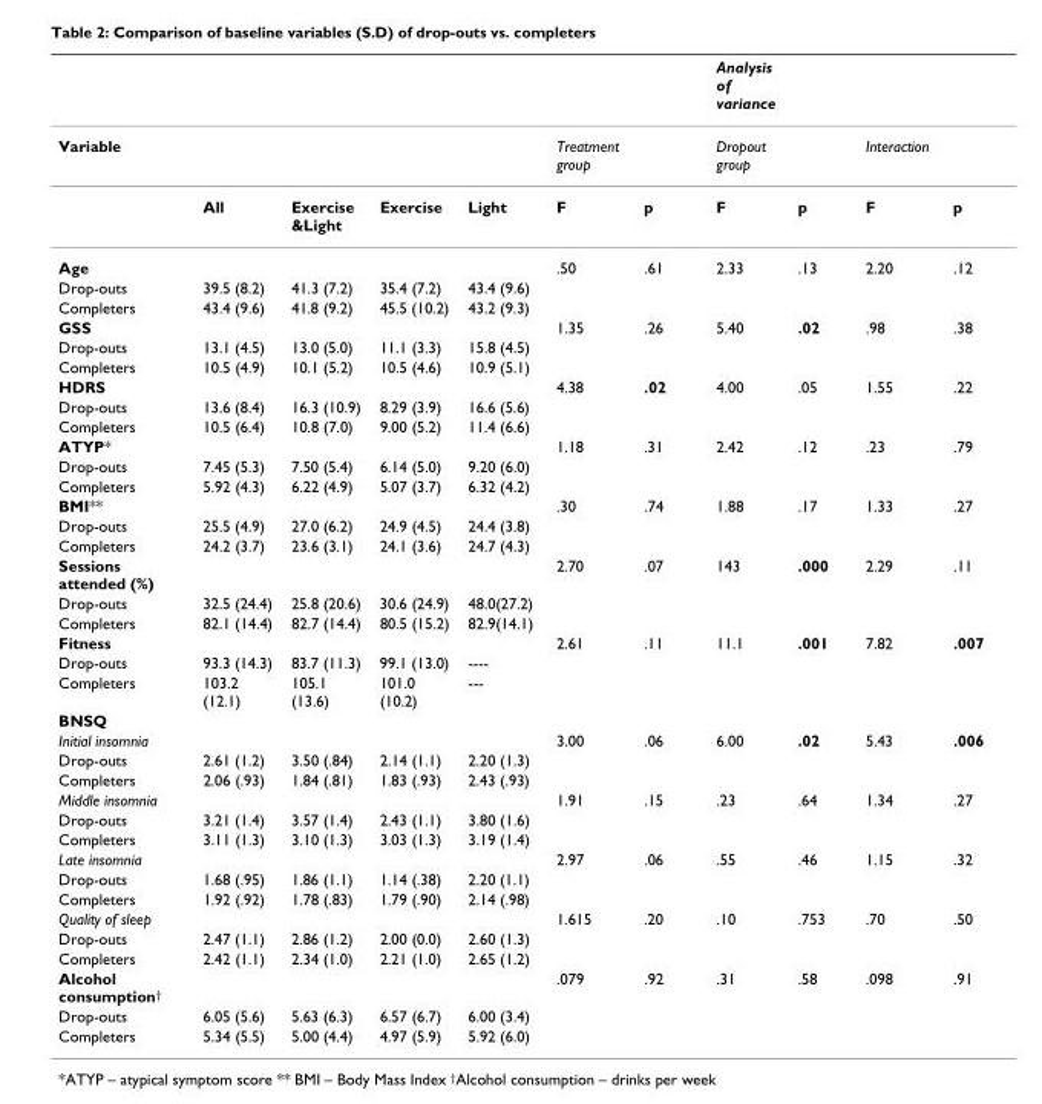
<table><thead><tr><td></td><td></td><td></td><td></td><td></td><td></td><td></td><td>Analysis of variance</td><td></td><td></td><td></td></tr></thead><tbody><tr><td rowspan="2">Variable</td><td></td><td></td><td></td><td></td><td>Treatment group</td><td></td><td>Dropout group</td><td></td><td>Interaction</td><td></td></tr><tr><td>All</td><td>Exercise &amp;Light</td><td>Exercise</td><td>Light</td><td>F</td><td>p</td><td>F</td><td>p</td><td>F</td><td>p</td></tr><tr><td>Age</td><td></td><td></td><td></td><td></td><td>.50</td><td>.61</td><td>2.33</td><td>.13</td><td>2.20</td><td>.12</td></tr><tr><td>Drop-outs</td><td>39.5 (8.2)</td><td>41.3 (7.2)</td><td>35.4 (7.2)</td><td>43.4 (9.6)</td><td></td><td></td><td></td><td></td><td></td><td></td></tr><tr><td>Completers</td><td>43.4 (9.6)</td><td>41.8 (9.2)</td><td>45.5 (10.2)</td><td>43.2 (9.3)</td><td></td><td></td><td></td><td></td><td></td><td></td></tr><tr><td>GSS</td><td></td><td></td><td></td><td></td><td>1.35</td><td>.26</td><td>5.40</td><td>.02</td><td>.98</td><td>.38</td></tr><tr><td>Drop-outs</td><td>13.1 (4.5)</td><td>13.0 (5.0)</td><td>11.1 (3.3)</td><td>15.8 (4.5)</td><td></td><td></td><td></td><td></td><td></td><td></td></tr><tr><td>Completers</td><td>10.5 (4.9)</td><td>10.1 (5.2)</td><td>10.5 (4.6)</td><td>10.9 (5.1)</td><td></td><td></td><td></td><td></td><td></td><td></td></tr><tr><td>HDRS</td><td></td><td></td><td></td><td></td><td>4.38</td><td>.02</td><td>4.00</td><td>.05</td><td>1.55</td><td>.22</td></tr><tr><td>Drop-outs</td><td>13.6 (8.4)</td><td>16.3 (10.9)</td><td>8.29 (3.9)</td><td>16.6 (5.6)</td><td></td><td></td><td></td><td></td><td></td><td></td></tr><tr><td>Completers</td><td>10.5 (6.4)</td><td>10.8 (7.0)</td><td>9.00 (5.2)</td><td>11.4 (6.6)</td><td></td><td></td><td></td><td></td><td></td><td></td></tr><tr><td>ATYP*</td><td></td><td></td><td></td><td></td><td>1.18</td><td>.31</td><td>2.42</td><td>.12</td><td>.23</td><td>.79</td></tr><tr><td>Drop-outs</td><td>7.45 (5.3)</td><td>7.50 (5.4)</td><td>6.14 (5.0)</td><td>9.20 (6.0)</td><td></td><td></td><td></td><td></td><td></td><td></td></tr><tr><td>Completers</td><td>5.92 (4.3)</td><td>6.22 (4.9)</td><td>5.07 (3.7)</td><td>6.32 (4.2)</td><td></td><td></td><td></td><td></td><td></td><td></td></tr><tr><td>BMI**</td><td></td><td></td><td></td><td></td><td>.30</td><td>.74</td><td>1.88</td><td>.17</td><td>1.33</td><td>.27</td></tr><tr><td>Drop-outs</td><td>25.5 (4.9)</td><td>27.0 (6.2)</td><td>24.9 (4.5)</td><td>24.4 (3.8)</td><td></td><td></td><td></td><td></td><td></td><td></td></tr><tr><td>Completers</td><td>24.2 (3.7)</td><td>23.6 (3.1)</td><td>24.1 (3.6)</td><td>24.7 (4.3)</td><td></td><td></td><td></td><td></td><td></td><td></td></tr><tr><td>Sessions attended (%)</td><td></td><td></td><td></td><td></td><td>2.70</td><td>.07</td><td>143</td><td>.000</td><td>2.29</td><td>.11</td></tr><tr><td>Drop-outs</td><td>32.5 (24.4)</td><td>25.8 (20.6)</td><td>30.6 (24.9)</td><td>48.0(27.2)</td><td></td><td></td><td></td><td></td><td></td><td></td></tr><tr><td>Completers</td><td>82.1 (14.4)</td><td>82.7 (14.4)</td><td>80.5 (15.2)</td><td>82.9(14.1)</td><td></td><td></td><td></td><td></td><td></td><td></td></tr><tr><td>Fitness</td><td></td><td></td><td></td><td></td><td>2.61</td><td>.11</td><td>11.1</td><td>.001</td><td>7.82</td><td>.007</td></tr><tr><td>Drop-outs</td><td>93.3 (14.3)</td><td>83.7 (11.3)</td><td>99.1 (13.0)</td><td>----</td><td></td><td></td><td></td><td></td><td></td><td></td></tr><tr><td>Completers</td><td>103.2 (12.1)</td><td>105.1 (13.6)</td><td>101.0 (10.2)</td><td>---</td><td></td><td></td><td></td><td></td><td></td><td></td></tr><tr><td colspan="11">BNSQ</td></tr><tr><td>Initial insomnia</td><td></td><td></td><td></td><td></td><td>3.00</td><td>.06</td><td>6.00</td><td>.02</td><td>5.43</td><td>.006</td></tr><tr><td>Drop-outs</td><td>2.61 (1.2)</td><td>3.50 (.84)</td><td>2.14 (1.1)</td><td>2.20 (1.3)</td><td></td><td></td><td></td><td></td><td></td><td></td></tr><tr><td>Completers</td><td>2.06 (.93)</td><td>1.84 (.81)</td><td>1.83 (.93)</td><td>2.43 (.93)</td><td></td><td></td><td></td><td></td><td></td><td></td></tr><tr><td>Middle insomnia</td><td></td><td></td><td></td><td></td><td>1.91</td><td>.15</td><td>.23</td><td>.64</td><td>1.34</td><td>.27</td></tr><tr><td>Drop-outs</td><td>3.21 (1.4)</td><td>3.57 (1.4)</td><td>2.43 (1.1)</td><td>3.80 (1.6)</td><td></td><td></td><td></td><td></td><td></td><td></td></tr><tr><td>Completers</td><td>3.11 (1.3)</td><td>3.10 (1.3)</td><td>3.03 (1.3)</td><td>3.19 (1.4)</td><td></td><td></td><td></td><td></td><td></td><td></td></tr><tr><td>Late insomnia</td><td></td><td></td><td></td><td></td><td>2.97</td><td>.06</td><td>.55</td><td>.46</td><td>1.15</td><td>.32</td></tr><tr><td>Drop-outs</td><td>1.68 (.95)</td><td>1.86 (1.1)</td><td>1.14 (.38)</td><td>2.20 (1.1)</td><td></td><td></td><td></td><td></td><td></td><td></td></tr><tr><td>Completers</td><td>1.92 (.92)</td><td>1.78 (.83)</td><td>1.79 (.90)</td><td>2.14 (.98)</td><td></td><td></td><td></td><td></td><td></td><td></td></tr><tr><td>Quality of sleep</td><td></td><td></td><td></td><td></td><td>1.615</td><td>.20</td><td>.10</td><td>.753</td><td>.70</td><td>.50</td></tr><tr><td>Drop-outs</td><td>2.47 (1.1)</td><td>2.86 (1.2)</td><td>2.00 (0.0)</td><td>2.60 (1.3)</td><td></td><td></td><td></td><td></td><td></td><td></td></tr><tr><td>Completers</td><td>2.42 (1.1)</td><td>2.34 (1.0)</td><td>2.21 (1.0)</td><td>2.65 (1.2)</td><td></td><td></td><td></td><td></td><td></td><td></td></tr><tr><td>Alcohol consumption<sup>†</sup></td><td></td><td></td><td></td><td></td><td>.079</td><td>.92</td><td>.31</td><td>.58</td><td>.098</td><td>.91</td></tr><tr><td>Drop-outs</td><td>6.05 (5.6)</td><td>5.63 (6.3)</td><td>6.57 (6.7)</td><td>6.00 (3.4)</td><td></td><td></td><td></td><td></td><td></td><td></td></tr><tr><td>Completers</td><td>5.34 (5.5)</td><td>5.00 (4.4)</td><td>4.97 (5.9)</td><td>5.92 (6.0)</td><td></td><td></td><td></td><td></td><td></td><td></td></tr></tbody></table>